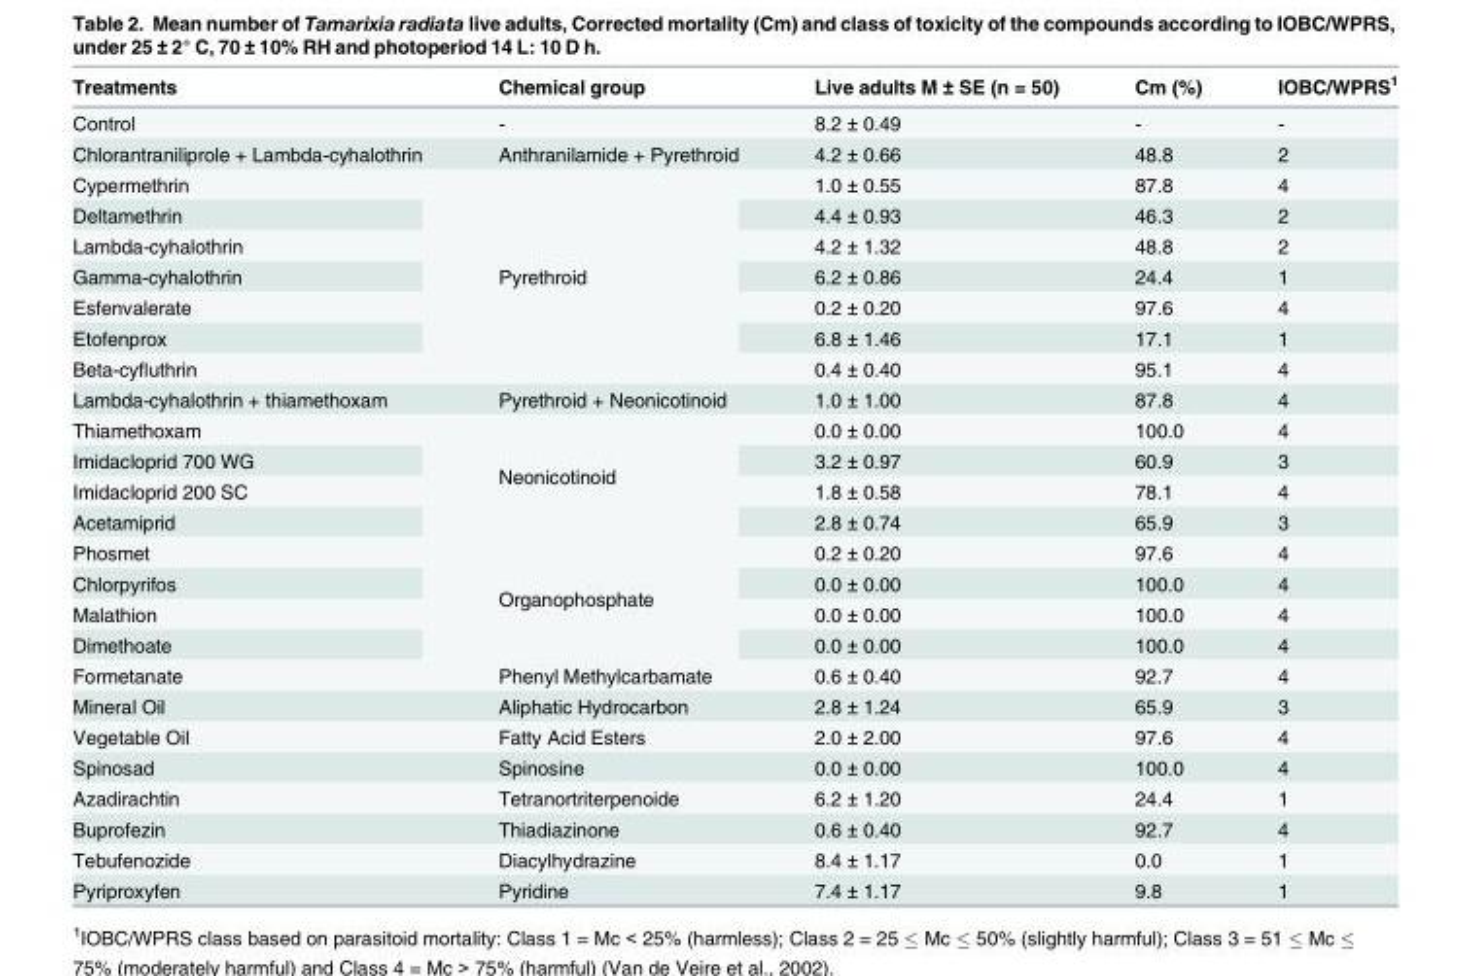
<table><thead><tr><td>Treatments</td><td>Chemical group</td><td>Live adults M ± SE (n = 50)</td><td>Cm (%)</td><td>IOBC/WPRS<sup>1</sup></td></tr></thead><tbody><tr><td>Control</td><td>-</td><td>8.2 ± 0.49</td><td>-</td><td>-</td></tr><tr><td>Chlorantraniliprole + Lambda-cyhalothrin</td><td>Anthranilamide + Pyrethroid</td><td>4.2 ± 0.66</td><td>48.8</td><td>2</td></tr><tr><td>Cypermethrin</td><td rowspan="7">Pyrethroid</td><td>1.0 ± 0.55</td><td>87.8</td><td>4</td></tr><tr><td>Deltamethrin</td><td>4.4 ± 0.93</td><td>46.3</td><td>2</td></tr><tr><td>Lambda-cyhalothrin</td><td>4.2 ± 1.32</td><td>48.8</td><td>2</td></tr><tr><td>Gamma-cyhalothrin</td><td>6.2 ± 0.86</td><td>24.4</td><td>1</td></tr><tr><td>Esfenvalerate</td><td>0.2 ± 0.20</td><td>97.6</td><td>4</td></tr><tr><td>Etofenprox</td><td>6.8 ± 1.46</td><td>17.1</td><td>1</td></tr><tr><td>Beta-cyfluthrin</td><td>0.4 ± 0.40</td><td>95.1</td><td>4</td></tr><tr><td>Lambda-cyhalothrin + thiamethoxam</td><td>Pyrethroid + Neonicotinoid</td><td>1.0 ± 1.00</td><td>87.8</td><td>4</td></tr><tr><td>Thiamethoxam</td><td rowspan="4">Neonicotinoid</td><td>0.0 ± 0.00</td><td>100.0</td><td>4</td></tr><tr><td>Imidacloprid 700 WG</td><td>3.2 ± 0.97</td><td>60.9</td><td>3</td></tr><tr><td>Imidacloprid 200 SC</td><td>1.8 ± 0.58</td><td>78.1</td><td>4</td></tr><tr><td>Acetamiprid</td><td>2.8 ± 0.74</td><td>65.9</td><td>3</td></tr><tr><td>Phosmet</td><td rowspan="4">Organophosphate</td><td>0.2 ± 0.20</td><td>97.6</td><td>4</td></tr><tr><td>Chlorpyrifos</td><td>0.0 ± 0.00</td><td>100.0</td><td>4</td></tr><tr><td>Malathion</td><td>0.0 ± 0.00</td><td>100.0</td><td>4</td></tr><tr><td>Dimethoate</td><td>0.0 ± 0.00</td><td>100.0</td><td>4</td></tr><tr><td>Formetanate</td><td>Phenyl Methylcarbamate</td><td>0.6 ± 0.40</td><td>92.7</td><td>4</td></tr><tr><td>Mineral Oil</td><td>Aliphatic Hydrocarbon</td><td>2.8 ± 1.24</td><td>65.9</td><td>3</td></tr><tr><td>Vegetable Oil</td><td>Fatty Acid Esters</td><td>2.0 ± 2.00</td><td>97.6</td><td>4</td></tr><tr><td>Spinosad</td><td>Spinosine</td><td>0.0 ± 0.00</td><td>100.0</td><td>4</td></tr><tr><td>Azadirachtin</td><td>Tetranortriterpenoide</td><td>6.2 ± 1.20</td><td>24.4</td><td>1</td></tr><tr><td>Buprofezin</td><td>Thiadiazinone</td><td>0.6 ± 0.40</td><td>92.7</td><td>4</td></tr><tr><td>Tebufenozide</td><td>Diacylhydrazine</td><td>8.4 ± 1.17</td><td>0.0</td><td>1</td></tr><tr><td>Pyriproxyfen</td><td>Pyridine</td><td>7.4 ± 1.17</td><td>9.8</td><td>1</td></tr></tbody></table>